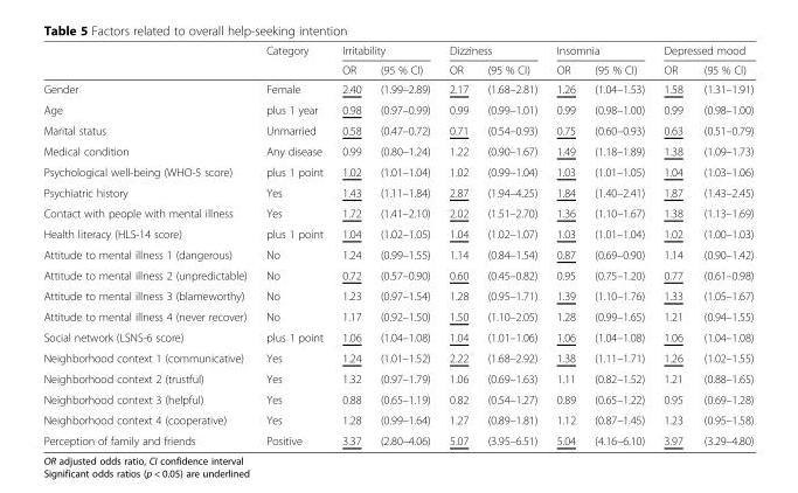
<table><thead><tr><td rowspan="2"></td><td rowspan="2">Category</td><td colspan="2">Irritability</td><td colspan="2">Dizziness</td><td colspan="2">Insomnia</td><td colspan="2">Depressed mood</td></tr><tr><td>OR</td><td>(95 % CI)</td><td>OR</td><td>(95 % CI)</td><td>OR</td><td>(95 % CI)</td><td>OR</td><td>(95 % CI)</td></tr></thead><tbody><tr><td>Gender</td><td>Female</td><td>2.40</td><td>(1.99–2.89)</td><td>2.17</td><td>(1.68–2.81)</td><td>1.26</td><td>(1.04–1.53)</td><td>1.58</td><td>(1.31–1.91)</td></tr><tr><td>Age</td><td>plus 1 year</td><td>0.98</td><td>(0.97–0.99)</td><td>0.99</td><td>(0.99–1.01)</td><td>0.99</td><td>(0.98–1.00)</td><td>0.99</td><td>(0.98–1.00)</td></tr><tr><td>Marital status</td><td>Unmarried</td><td>0.58</td><td>(0.47–0.72)</td><td>0.71</td><td>(0.54–0.93)</td><td>0.75</td><td>(0.60–0.93)</td><td>0.63</td><td>(0.51–0.79)</td></tr><tr><td>Medical condition</td><td>Any disease</td><td>0.99</td><td>(0.80–1.24)</td><td>1.22</td><td>(0.90–1.67)</td><td>1.49</td><td>(1.18–1.89)</td><td>1.38</td><td>(1.09–1.73)</td></tr><tr><td>Psychological well-being (WHO-5 score)</td><td>plus 1 point</td><td>1.02</td><td>(1.01–1.04)</td><td>1.02</td><td>(0.99–1.04)</td><td>1.03</td><td>(1.01–1.05)</td><td>1.04</td><td>(1.03–1.06)</td></tr><tr><td>Psychiatric history</td><td>Yes</td><td>1.43</td><td>(1.11–1.84)</td><td>2.87</td><td>(1.94–4.25)</td><td>1.84</td><td>(1.40–2.41)</td><td>1.87</td><td>(1.43–2.45)</td></tr><tr><td>Contact with people with mental illness</td><td>Yes</td><td>1.72</td><td>(1.41–2.10)</td><td>2.02</td><td>(1.51–2.70)</td><td>1.36</td><td>(1.10–1.67)</td><td>1.38</td><td>(1.13–1.69)</td></tr><tr><td>Health literacy (HLS-14 score)</td><td>plus 1 point</td><td>1.04</td><td>(1.02–1.05)</td><td>1.04</td><td>(1.02–1.07)</td><td>1.03</td><td>(1.01–1.04)</td><td>1.02</td><td>(1.00–1.03)</td></tr><tr><td>Attitude to mental illness 1 (dangerous)</td><td>No</td><td>1.24</td><td>(0.99–1.55)</td><td>1.14</td><td>(0.84–1.54)</td><td>0.87</td><td>(0.69–0.90)</td><td>1.14</td><td>(0.90–1.42)</td></tr><tr><td>Attitude to mental illness 2 (unpredictable)</td><td>No</td><td>0.72</td><td>(0.57–0.90)</td><td>0.60</td><td>(0.45–0.82)</td><td>0.95</td><td>(0.75–1.20)</td><td>0.77</td><td>(0.61–0.98)</td></tr><tr><td>Attitude to mental illness 3 (blameworthy)</td><td>No</td><td>1.23</td><td>(0.97–1.54)</td><td>1.28</td><td>(0.95–1.71)</td><td>1.39</td><td>(1.10–1.76)</td><td>1.33</td><td>(1.05–1.67)</td></tr><tr><td>Attitude to mental illness 4 (never recover)</td><td>No</td><td>1.17</td><td>(0.92–1.50)</td><td>1.50</td><td>(1.10–2.05)</td><td>1.28</td><td>(0.99–1.65)</td><td>1.21</td><td>(0.94–1.55)</td></tr><tr><td>Social network (LSNS-6 score)</td><td>plus 1 point</td><td>1.06</td><td>(1.04–1.08)</td><td>1.04</td><td>(1.01–1.06)</td><td>1.06</td><td>(1.04–1.08)</td><td>1.06</td><td>(1.04–1.08)</td></tr><tr><td>Neighborhood context 1 (communicative)</td><td>Yes</td><td>1.24</td><td>(1.01–1.52)</td><td>2.22</td><td>(1.68–2.92)</td><td>1.38</td><td>(1.11–1.71)</td><td>1.26</td><td>(1.02–1.55)</td></tr><tr><td>Neighborhood context 2 (trustful)</td><td>Yes</td><td>1.32</td><td>(0.97–1.79)</td><td>1.06</td><td>(0.69–1.63)</td><td>1.11</td><td>(0.82–1.52)</td><td>1.21</td><td>(0.88–1.65)</td></tr><tr><td>Neighborhood context 3 (helpful)</td><td>Yes</td><td>0.88</td><td>(0.65–1.19)</td><td>0.82</td><td>(0.54–1.27)</td><td>0.89</td><td>(0.65–1.22)</td><td>0.95</td><td>(0.69–1.28)</td></tr><tr><td>Neighborhood context 4 (cooperative)</td><td>Yes</td><td>1.28</td><td>(0.99–1.64)</td><td>1.27</td><td>(0.89–1.81)</td><td>1.12</td><td>(0.87–1.45)</td><td>1.23</td><td>(0.95–1.58)</td></tr><tr><td>Perception of family and friends</td><td>Positive</td><td>3.37</td><td>(2.80–4.06)</td><td>5.07</td><td>(3.95–6.51)</td><td>5.04</td><td>(4.16–6.10)</td><td>3.97</td><td>(3.29–4.80)</td></tr></tbody></table>